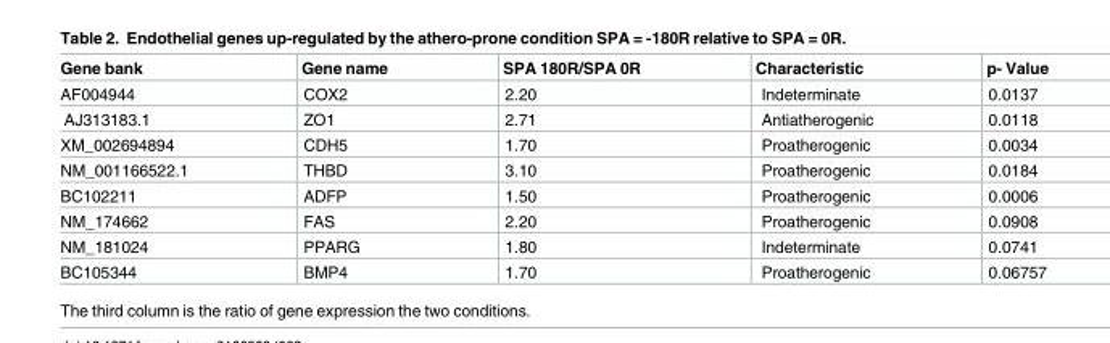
<table><thead><tr><td>Gene bank</td><td>Gene name</td><td>SPA 180R/SPA 0R</td><td>Characteristic</td><td>p- Value</td></tr></thead><tbody><tr><td>AF004944</td><td>COX2</td><td>2.20</td><td>Indeterminate</td><td>0.0137</td></tr><tr><td>AJ313183.1</td><td>ZO1</td><td>2.71</td><td>Antiatherogenic</td><td>0.0118</td></tr><tr><td>XM_002694894</td><td>CDH5</td><td>1.70</td><td>Proatherogenic</td><td>0.0034</td></tr><tr><td>NM_001166522.1</td><td>THBD</td><td>3.10</td><td>Proatherogenic</td><td>0.0184</td></tr><tr><td>BC102211</td><td>ADFP</td><td>1.50</td><td>Proatherogenic</td><td>0.0006</td></tr><tr><td>NM_174662</td><td>FAS</td><td>2.20</td><td>Proatherogenic</td><td>0.0908</td></tr><tr><td>NM_181024</td><td>PPARG</td><td>1.80</td><td>Indeterminate</td><td>0.0741</td></tr><tr><td>BC105344</td><td>BMP4</td><td>1.70</td><td>Proatherogenic</td><td>0.06757</td></tr></tbody></table>